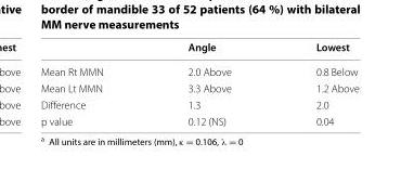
<table><thead><tr><td></td><td>Angle</td><td>Lowest</td></tr></thead><tbody><tr><td>Mean Rt MMN</td><td>2.0 Above</td><td>0.8 Below</td></tr><tr><td>Mean Lt MMN</td><td>3.3 Above</td><td>1.2 Above</td></tr><tr><td>Difference</td><td>1.3</td><td>2.0</td></tr><tr><td>p value</td><td>0.12 (NS)</td><td>0.04</td></tr></tbody></table>